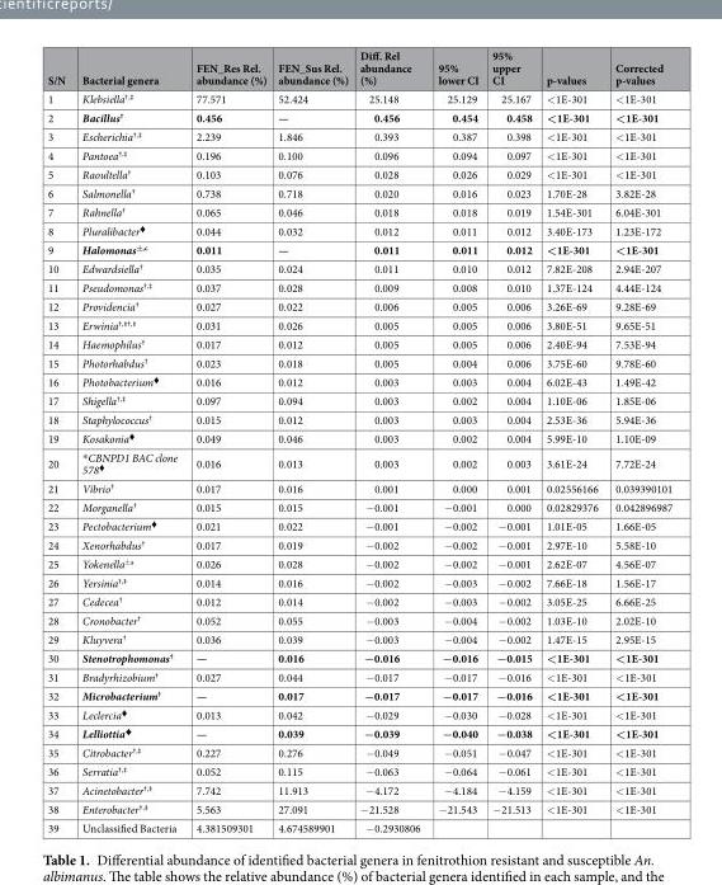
<table><thead><tr><td>S/N</td><td>Bacterial genera</td><td>FEN_Res Rel. abundance (%)</td><td>FEN_Sus Rel. abundance (%)</td><td>Diff. Rel abundance (%)</td><td>95% lower CI</td><td>95% upper CI</td><td>p-values</td><td>Corrected p-values</td></tr></thead><tbody><tr><td>1</td><td>Klebsiella<sup>†,‡</sup></td><td>77.571</td><td>52.424</td><td>25.148</td><td>25.129</td><td>25.167</td><td>&lt;1E-301</td><td>&lt;1E-301</td></tr><tr><td>2</td><td>Bacillus<sup>†</sup></td><td>0.456</td><td>—</td><td>0.456</td><td>0.454</td><td>0.458</td><td>&lt;1E-301</td><td>&lt;1E-301</td></tr><tr><td>3</td><td>Escherichia<sup>†,‡</sup></td><td>2.239</td><td>1.846</td><td>0.393</td><td>0.387</td><td>0.398</td><td>&lt;1E-301</td><td>&lt;1E-301</td></tr><tr><td>4</td><td>Pantoea<sup>†,‡</sup></td><td>0.196</td><td>0.100</td><td>0.096</td><td>0.094</td><td>0.097</td><td>&lt;1E-301</td><td>&lt;1E-301</td></tr><tr><td>5</td><td>Raoultella<sup>†</sup></td><td>0.103</td><td>0.076</td><td>0.028</td><td>0.026</td><td>0.029</td><td>&lt;1E-301</td><td>&lt;1E-301</td></tr><tr><td>6</td><td>Salmonella<sup>†</sup></td><td>0.738</td><td>0.718</td><td>0.020</td><td>0.016</td><td>0.023</td><td>1.70E-28</td><td>3.82E-28</td></tr><tr><td>7</td><td>Rahnella<sup>†</sup></td><td>0.065</td><td>0.046</td><td>0.018</td><td>0.018</td><td>0.019</td><td>1.54E-301</td><td>6.04E-301</td></tr><tr><td>8</td><td>Pluralibacter<sup>♦</sup></td><td>0.044</td><td>0.032</td><td>0.012</td><td>0.011</td><td>0.012</td><td>3.40E-173</td><td>1.23E-172</td></tr><tr><td>9</td><td>Halomonas<sup>±,c</sup></td><td>0.011</td><td>—</td><td>0.011</td><td>0.011</td><td>0.012</td><td>&lt;1E-301</td><td>&lt;1E-301</td></tr><tr><td>10</td><td>Edwardsiella<sup>†</sup></td><td>0.035</td><td>0.024</td><td>0.011</td><td>0.010</td><td>0.012</td><td>7.82E-208</td><td>2.94E-207</td></tr><tr><td>11</td><td>Pseudomonas<sup>†,‡</sup></td><td>0.037</td><td>0.028</td><td>0.009</td><td>0.008</td><td>0.010</td><td>1.37E-124</td><td>4.44E-124</td></tr><tr><td>12</td><td>Providencia<sup>†</sup></td><td>0.027</td><td>0.022</td><td>0.006</td><td>0.005</td><td>0.006</td><td>3.26E-69</td><td>9.28E-69</td></tr><tr><td>13</td><td>Erwinia<sup>†,‡†,‡</sup></td><td>0.031</td><td>0.026</td><td>0.005</td><td>0.005</td><td>0.006</td><td>3.80E-51</td><td>9.65E-51</td></tr><tr><td>14</td><td>Haemophilus<sup>†</sup></td><td>0.017</td><td>0.012</td><td>0.005</td><td>0.005</td><td>0.006</td><td>2.40E-94</td><td>7.53E-94</td></tr><tr><td>15</td><td>Photorhabdus<sup>†</sup></td><td>0.023</td><td>0.018</td><td>0.005</td><td>0.004</td><td>0.006</td><td>3.75E-60</td><td>9.78E-60</td></tr><tr><td>16</td><td>Photobacterium<sup>♦</sup></td><td>0.016</td><td>0.012</td><td>0.003</td><td>0.003</td><td>0.004</td><td>6.02E-43</td><td>1.49E-42</td></tr><tr><td>17</td><td>Shigella<sup>†,‡</sup></td><td>0.097</td><td>0.094</td><td>0.003</td><td>0.002</td><td>0.004</td><td>1.10E-06</td><td>1.85E-06</td></tr><tr><td>18</td><td>Staphylococcus<sup>†</sup></td><td>0.015</td><td>0.012</td><td>0.003</td><td>0.003</td><td>0.004</td><td>2.53E-36</td><td>5.94E-36</td></tr><tr><td>19</td><td>Kosakonia<sup>♦</sup></td><td>0.049</td><td>0.046</td><td>0.003</td><td>0.002</td><td>0.004</td><td>5.99E-10</td><td>1.10E-09</td></tr><tr><td>20</td><td>*CBNPD1 BAC clone 578<sup>♦</sup></td><td>0.016</td><td>0.013</td><td>0.003</td><td>0.002</td><td>0.003</td><td>3.61E-24</td><td>7.72E-24</td></tr><tr><td>21</td><td>Vibrio<sup>†</sup></td><td>0.017</td><td>0.016</td><td>0.001</td><td>0.000</td><td>0.001</td><td>0.02556166</td><td>0.039390101</td></tr><tr><td>22</td><td>Morganella<sup>†</sup></td><td>0.015</td><td>0.015</td><td>−0.001</td><td>−0.001</td><td>0.000</td><td>0.02829376</td><td>0.042896987</td></tr><tr><td>23</td><td>Pectobacterium<sup>♦</sup></td><td>0.021</td><td>0.022</td><td>−0.001</td><td>−0.002</td><td>−0.001</td><td>1.01E-05</td><td>1.66E-05</td></tr><tr><td>24</td><td>Xenorhabdus<sup>†</sup></td><td>0.017</td><td>0.019</td><td>−0.002</td><td>−0.002</td><td>−0.001</td><td>2.97E-10</td><td>5.58E-10</td></tr><tr><td>25</td><td>Yokenella<sup>±a</sup></td><td>0.026</td><td>0.028</td><td>−0.002</td><td>−0.002</td><td>−0.001</td><td>2.62E-07</td><td>4.56E-07</td></tr><tr><td>26</td><td>Yersinia<sup>†,‡</sup></td><td>0.014</td><td>0.016</td><td>−0.002</td><td>−0.003</td><td>−0.002</td><td>7.66E-18</td><td>1.56E-17</td></tr><tr><td>27</td><td>Cedecea<sup>†</sup></td><td>0.012</td><td>0.014</td><td>−0.002</td><td>−0.003</td><td>−0.002</td><td>3.05E-25</td><td>6.66E-25</td></tr><tr><td>28</td><td>Cronobacter<sup>†</sup></td><td>0.052</td><td>0.055</td><td>−0.003</td><td>−0.004</td><td>−0.002</td><td>1.03E-10</td><td>2.02E-10</td></tr><tr><td>29</td><td>Kluyvera<sup>†</sup></td><td>0.036</td><td>0.039</td><td>−0.003</td><td>−0.004</td><td>−0.002</td><td>1.47E-15</td><td>2.95E-15</td></tr><tr><td>30</td><td>Stenotrophomonas<sup>†</sup></td><td>—</td><td>0.016</td><td>−0.016</td><td>−0.016</td><td>−0.015</td><td>&lt;1E-301</td><td>&lt;1E-301</td></tr><tr><td>31</td><td>Bradyrhizobium<sup>†</sup></td><td>0.027</td><td>0.044</td><td>−0.017</td><td>−0.017</td><td>−0.016</td><td>&lt;1E-301</td><td>&lt;1E-301</td></tr><tr><td>32</td><td>Microbacterium<sup>†</sup></td><td>—</td><td>0.017</td><td>−0.017</td><td>−0.017</td><td>−0.016</td><td>&lt;1E-301</td><td>&lt;1E-301</td></tr><tr><td>33</td><td>Leclercia<sup>♦</sup></td><td>0.013</td><td>0.042</td><td>−0.029</td><td>−0.030</td><td>−0.028</td><td>&lt;1E-301</td><td>&lt;1E-301</td></tr><tr><td>34</td><td>Lelliottia<sup>♦</sup></td><td>—</td><td>0.039</td><td>−0.039</td><td>−0.040</td><td>−0.038</td><td>&lt;1E-301</td><td>&lt;1E-301</td></tr><tr><td>35</td><td>Citrobacter<sup>†,‡</sup></td><td>0.227</td><td>0.276</td><td>−0.049</td><td>−0.051</td><td>−0.047</td><td>&lt;1E-301</td><td>&lt;1E-301</td></tr><tr><td>36</td><td>Serratia<sup>†,‡</sup></td><td>0.052</td><td>0.115</td><td>−0.063</td><td>−0.064</td><td>−0.061</td><td>&lt;1E-301</td><td>&lt;1E-301</td></tr><tr><td>37</td><td>Acinetobacter<sup>†,‡</sup></td><td>7.742</td><td>11.913</td><td>−4.172</td><td>−4.184</td><td>−4.159</td><td>&lt;1E-301</td><td>&lt;1E-301</td></tr><tr><td>38</td><td>Enterobacter<sup>†,‡</sup></td><td>5.563</td><td>27.091</td><td>−21.528</td><td>−21.543</td><td>−21.513</td><td>&lt;1E-301</td><td>&lt;1E-301</td></tr><tr><td>39</td><td>Unclassified Bacteria</td><td>4.381509301</td><td>4.674589901</td><td>−0.2930806</td><td></td><td></td><td></td><td></td></tr></tbody></table>